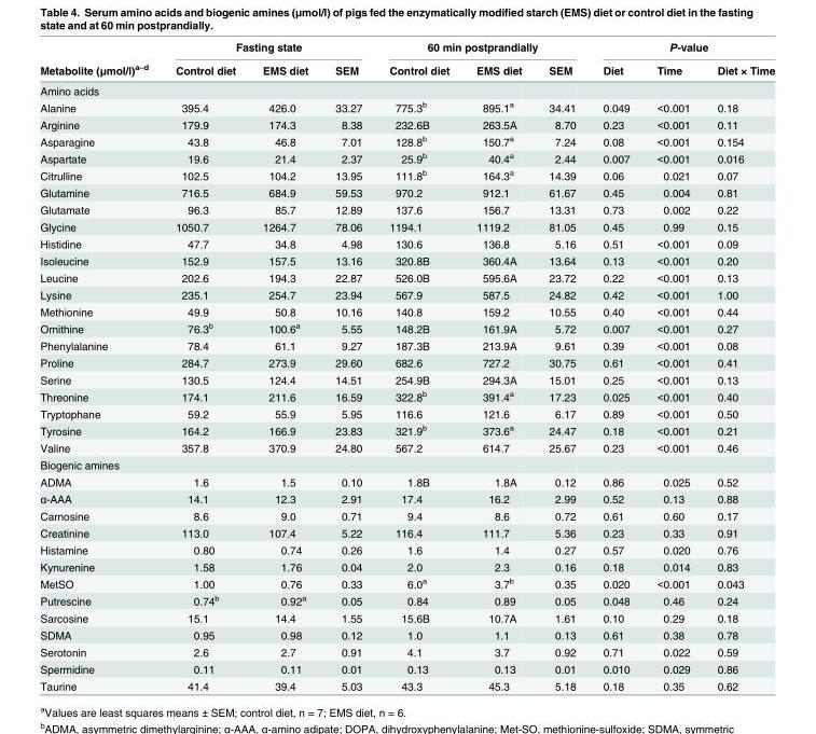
<table><thead><tr><td rowspan="2">Metabolite (μmol/l)<sup>a–d</sup></td><td colspan="3">Fasting state</td><td colspan="3">60 min postprandially</td><td colspan="3">P-value</td></tr><tr><td>Control diet</td><td>EMS diet</td><td>SEM</td><td>Control diet</td><td>EMS diet</td><td>SEM</td><td>Diet</td><td>Time</td><td>Diet × Time</td></tr></thead><tbody><tr><td colspan="10">Amino acids</td></tr><tr><td>Alanine</td><td>395.4</td><td>426.0</td><td>33.27</td><td>775.3<sup>b</sup></td><td>895.1<sup>a</sup></td><td>34.41</td><td>0.049</td><td>&lt;0.001</td><td>0.18</td></tr><tr><td>Arginine</td><td>179.9</td><td>174.3</td><td>8.38</td><td>232.6B</td><td>263.5A</td><td>8.70</td><td>0.23</td><td>&lt;0.001</td><td>0.11</td></tr><tr><td>Asparagine</td><td>43.8</td><td>46.8</td><td>7.01</td><td>128.8<sup>b</sup></td><td>150.7<sup>a</sup></td><td>7.24</td><td>0.08</td><td>&lt;0.001</td><td>0.154</td></tr><tr><td>Aspartate</td><td>19.6</td><td>21.4</td><td>2.37</td><td>25.9<sup>b</sup></td><td>40.4<sup>a</sup></td><td>2.44</td><td>0.007</td><td>&lt;0.001</td><td>0.016</td></tr><tr><td>Citrulline</td><td>102.5</td><td>104.2</td><td>13.95</td><td>111.8<sup>b</sup></td><td>164.3<sup>a</sup></td><td>14.39</td><td>0.06</td><td>0.021</td><td>0.07</td></tr><tr><td>Glutamine</td><td>716.5</td><td>684.9</td><td>59.53</td><td>970.2</td><td>912.1</td><td>61.67</td><td>0.45</td><td>0.004</td><td>0.81</td></tr><tr><td>Glutamate</td><td>96.3</td><td>85.7</td><td>12.89</td><td>137.6</td><td>156.7</td><td>13.31</td><td>0.73</td><td>0.002</td><td>0.22</td></tr><tr><td>Glycine</td><td>1050.7</td><td>1264.7</td><td>78.06</td><td>1194.1</td><td>1119.2</td><td>81.05</td><td>0.45</td><td>0.99</td><td>0.15</td></tr><tr><td>Histidine</td><td>47.7</td><td>34.8</td><td>4.98</td><td>130.6</td><td>136.8</td><td>5.16</td><td>0.51</td><td>&lt;0.001</td><td>0.09</td></tr><tr><td>Isoleucine</td><td>152.9</td><td>157.5</td><td>13.16</td><td>320.8B</td><td>360.4A</td><td>13.64</td><td>0.13</td><td>&lt;0.001</td><td>0.20</td></tr><tr><td>Leucine</td><td>202.6</td><td>194.3</td><td>22.87</td><td>526.0B</td><td>595.6A</td><td>23.72</td><td>0.22</td><td>&lt;0.001</td><td>0.13</td></tr><tr><td>Lysine</td><td>235.1</td><td>254.7</td><td>23.94</td><td>567.9</td><td>587.5</td><td>24.82</td><td>0.42</td><td>&lt;0.001</td><td>1.00</td></tr><tr><td>Methionine</td><td>49.9</td><td>50.8</td><td>10.16</td><td>140.8</td><td>159.2</td><td>10.55</td><td>0.40</td><td>&lt;0.001</td><td>0.44</td></tr><tr><td>Ornithine</td><td>76.3<sup>b</sup></td><td>100.6<sup>a</sup></td><td>5.55</td><td>148.2B</td><td>161.9A</td><td>5.72</td><td>0.007</td><td>&lt;0.001</td><td>0.27</td></tr><tr><td>Phenylalanine</td><td>78.4</td><td>61.1</td><td>9.27</td><td>187.3B</td><td>213.9A</td><td>9.61</td><td>0.39</td><td>&lt;0.001</td><td>0.08</td></tr><tr><td>Proline</td><td>284.7</td><td>273.9</td><td>29.60</td><td>682.6</td><td>727.2</td><td>30.75</td><td>0.61</td><td>&lt;0.001</td><td>0.41</td></tr><tr><td>Serine</td><td>130.5</td><td>124.4</td><td>14.51</td><td>254.9B</td><td>294.3A</td><td>15.01</td><td>0.25</td><td>&lt;0.001</td><td>0.13</td></tr><tr><td>Threonine</td><td>174.1</td><td>211.6</td><td>16.59</td><td>322.8<sup>b</sup></td><td>391.4<sup>a</sup></td><td>17.23</td><td>0.025</td><td>&lt;0.001</td><td>0.40</td></tr><tr><td>Tryptophane</td><td>59.2</td><td>55.9</td><td>5.95</td><td>116.6</td><td>121.6</td><td>6.17</td><td>0.89</td><td>&lt;0.001</td><td>0.50</td></tr><tr><td>Tyrosine</td><td>164.2</td><td>166.9</td><td>23.83</td><td>321.9<sup>b</sup></td><td>373.6<sup>a</sup></td><td>24.47</td><td>0.18</td><td>&lt;0.001</td><td>0.21</td></tr><tr><td>Valine</td><td>357.8</td><td>370.9</td><td>24.80</td><td>567.2</td><td>614.7</td><td>25.67</td><td>0.23</td><td>&lt;0.001</td><td>0.46</td></tr><tr><td colspan="10">Biogenic amines</td></tr><tr><td>ADMA</td><td>1.6</td><td>1.5</td><td>0.10</td><td>1.8B</td><td>1.8A</td><td>0.12</td><td>0.86</td><td>0.025</td><td>0.52</td></tr><tr><td>α-AAA</td><td>14.1</td><td>12.3</td><td>2.91</td><td>17.4</td><td>16.2</td><td>2.99</td><td>0.52</td><td>0.13</td><td>0.88</td></tr><tr><td>Carnosine</td><td>8.6</td><td>9.0</td><td>0.71</td><td>9.4</td><td>8.6</td><td>0.72</td><td>0.61</td><td>0.60</td><td>0.17</td></tr><tr><td>Creatinine</td><td>113.0</td><td>107.4</td><td>5.22</td><td>116.4</td><td>111.7</td><td>5.36</td><td>0.23</td><td>0.33</td><td>0.91</td></tr><tr><td>Histamine</td><td>0.80</td><td>0.74</td><td>0.26</td><td>1.6</td><td>1.4</td><td>0.27</td><td>0.57</td><td>0.020</td><td>0.76</td></tr><tr><td>Kynurenine</td><td>1.58</td><td>1.76</td><td>0.04</td><td>2.0</td><td>2.3</td><td>0.16</td><td>0.18</td><td>0.014</td><td>0.83</td></tr><tr><td>MetSO</td><td>1.00</td><td>0.76</td><td>0.33</td><td>6.0<sup>a</sup></td><td>3.7<sup>b</sup></td><td>0.35</td><td>0.020</td><td>&lt;0.001</td><td>0.043</td></tr><tr><td>Putrescine</td><td>0.74<sup>b</sup></td><td>0.92<sup>a</sup></td><td>0.05</td><td>0.84</td><td>0.89</td><td>0.05</td><td>0.048</td><td>0.46</td><td>0.24</td></tr><tr><td>Sarcosine</td><td>15.1</td><td>14.4</td><td>1.55</td><td>15.6B</td><td>10.7A</td><td>1.61</td><td>0.10</td><td>0.29</td><td>0.18</td></tr><tr><td>SDMA</td><td>0.95</td><td>0.98</td><td>0.12</td><td>1.0</td><td>1.1</td><td>0.13</td><td>0.61</td><td>0.38</td><td>0.78</td></tr><tr><td>Serotonin</td><td>2.6</td><td>2.7</td><td>0.91</td><td>4.1</td><td>3.7</td><td>0.92</td><td>0.71</td><td>0.022</td><td>0.59</td></tr><tr><td>Spermidine</td><td>0.11</td><td>0.11</td><td>0.01</td><td>0.13</td><td>0.13</td><td>0.01</td><td>0.010</td><td>0.029</td><td>0.86</td></tr><tr><td>Taurine</td><td>41.4</td><td>39.4</td><td>5.03</td><td>43.3</td><td>45.3</td><td>5.18</td><td>0.18</td><td>0.35</td><td>0.62</td></tr></tbody></table>